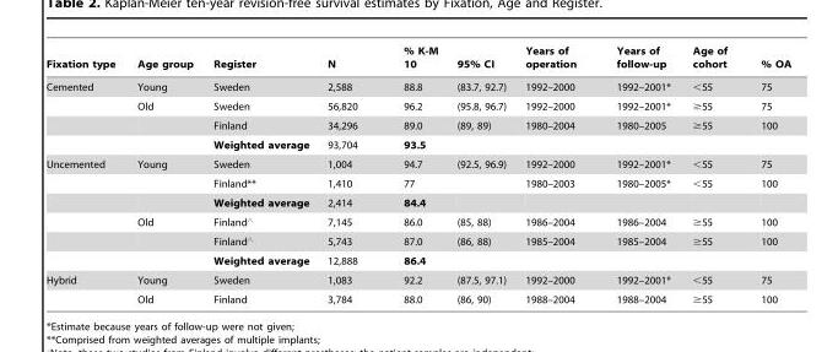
<table><thead><tr><td>Fixation type</td><td>Age group</td><td>Register</td><td>N</td><td>% K-M 10</td><td>95% CI</td><td>Years of operation</td><td>Years of follow-up</td><td>Age of cohort</td><td>% OA</td></tr></thead><tbody><tr><td rowspan="4">Cemented</td><td>Young</td><td>Sweden</td><td>2,588</td><td>88.8</td><td>(83.7, 92.7)</td><td>1992–2000</td><td>1992–2001*</td><td>&lt;55</td><td>75</td></tr><tr><td>Old</td><td>Sweden</td><td>56,820</td><td>96.2</td><td>(95.8, 96.7)</td><td>1992–2000</td><td>1992–2001*</td><td>≥55</td><td>75</td></tr><tr><td></td><td>Finland</td><td>34,296</td><td>89.0</td><td>(89, 89)</td><td>1980–2004</td><td>1980–2005</td><td>≥55</td><td>100</td></tr><tr><td></td><td>Weighted average</td><td>93,704</td><td>93.5</td><td></td><td></td><td></td><td></td><td></td></tr><tr><td rowspan="6">Uncemented</td><td>Young</td><td>Sweden</td><td>1,004</td><td>94.7</td><td>(92.5, 96.9)</td><td>1992–2000</td><td>1992–2001*</td><td>&lt;55</td><td>75</td></tr><tr><td></td><td>Finland**</td><td>1,410</td><td>77</td><td></td><td>1980–2003</td><td>1980–2005*</td><td>&lt;55</td><td>100</td></tr><tr><td></td><td>Weighted average</td><td>2,414</td><td>84.4</td><td></td><td></td><td></td><td></td><td></td></tr><tr><td>Old</td><td>Finland‘</td><td>7,145</td><td>86.0</td><td>(85, 88)</td><td>1986–2004</td><td>1986–2004</td><td>≥55</td><td>100</td></tr><tr><td></td><td>Finland‘</td><td>5,743</td><td>87.0</td><td>(86, 88)</td><td>1985–2004</td><td>1985–2004</td><td>≥55</td><td>100</td></tr><tr><td></td><td>Weighted average</td><td>12,888</td><td>86.4</td><td></td><td></td><td></td><td></td><td></td></tr><tr><td rowspan="2">Hybrid</td><td>Young</td><td>Sweden</td><td>1,083</td><td>92.2</td><td>(87.5, 97.1)</td><td>1992–2000</td><td>1992–2001*</td><td>&lt;55</td><td>75</td></tr><tr><td>Old</td><td>Finland</td><td>3,784</td><td>88.0</td><td>(86, 90)</td><td>1988–2004</td><td>1988–2004</td><td>≥55</td><td>100</td></tr></tbody></table>